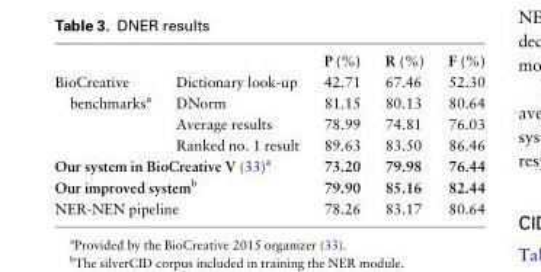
<table><thead><tr><td></td><td></td><td>P (%)</td><td>R (%)</td><td>F (%)</td></tr></thead><tbody><tr><td rowspan="4">BioCreative benchmarks<sup>a</sup></td><td>Dictionary look-up</td><td>42.71</td><td>67.46</td><td>52.30</td></tr><tr><td>DNorm</td><td>81.15</td><td>80.13</td><td>80.64</td></tr><tr><td>Average results</td><td>78.99</td><td>74.81</td><td>76.03</td></tr><tr><td>Ranked no. 1 result</td><td>89.63</td><td>83.50</td><td>86.46</td></tr><tr><td colspan="2">Our system in BioCreative V (33)<sup>a</sup></td><td>73.20</td><td>79.98</td><td>76.44</td></tr><tr><td colspan="2">Our improved system<sup>b</sup></td><td>79.90</td><td>85.16</td><td>82.44</td></tr><tr><td colspan="2">NER-NEN pipeline</td><td>78.26</td><td>83.17</td><td>80.64</td></tr></tbody></table>